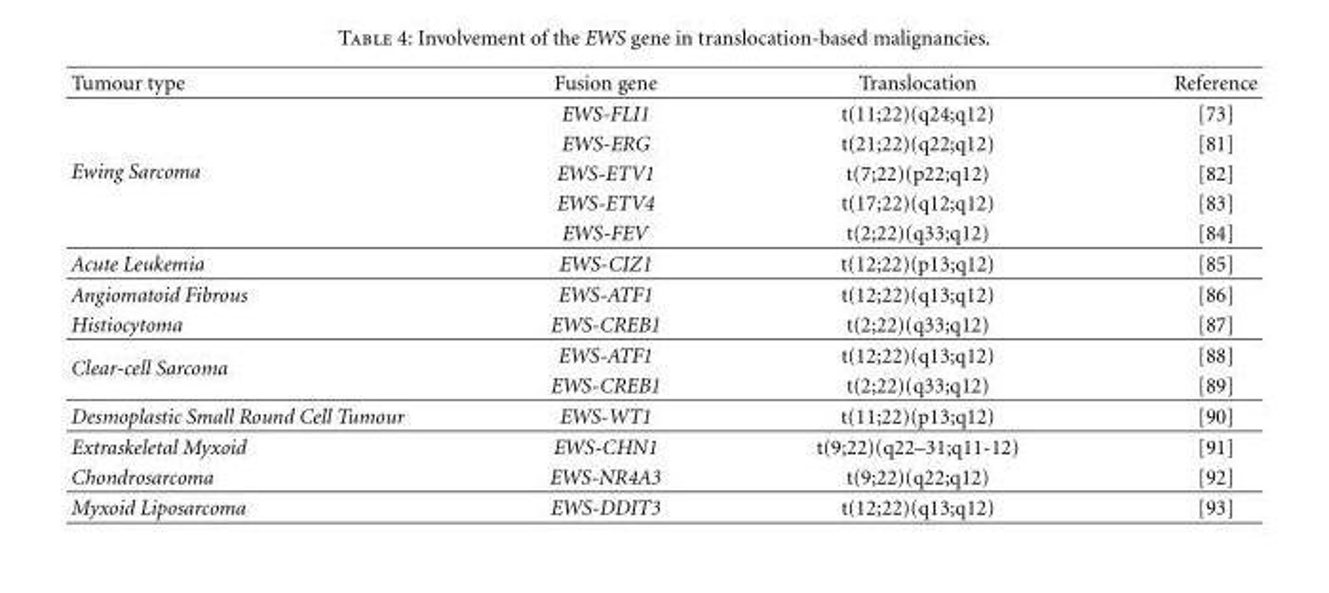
<table><thead><tr><td>Tumour type</td><td>Fusion gene</td><td>Translocation</td><td>Reference</td></tr></thead><tbody><tr><td rowspan="5">Ewing Sarcoma</td><td>EWS-FLI1</td><td>t(11;22)(q24;q12)</td><td>[73]</td></tr><tr><td>EWS-ERG</td><td>t(21;22)(q22;q12)</td><td>[81]</td></tr><tr><td>EWS-ETV1</td><td>t(7;22)(p22;q12)</td><td>[82]</td></tr><tr><td>EWS-ETV4</td><td>t(17;22)(q12;q12)</td><td>[83]</td></tr><tr><td>EWS-FEV</td><td>t(2;22)(q33;q12)</td><td>[84]</td></tr><tr><td>Acute Leukemia</td><td>EWS-CIZ1</td><td>t(12;22)(p13;q12)</td><td>[85]</td></tr><tr><td>Angiomatoid Fibrous</td><td>EWS-ATF1</td><td>t(12;22)(q13;q12)</td><td>[86]</td></tr><tr><td>Histiocytoma</td><td>EWS-CREB1</td><td>t(2;22)(q33;q12)</td><td>[87]</td></tr><tr><td rowspan="2">Clear-cell Sarcoma</td><td>EWS-ATF1</td><td>t(12;22)(q13;q12)</td><td>[88]</td></tr><tr><td>EWS-CREB1</td><td>t(2;22)(q33;q12)</td><td>[89]</td></tr><tr><td>Desmoplastic Small Round Cell Tumour</td><td>EWS-WT1</td><td>t(11;22)(p13;q12)</td><td>[90]</td></tr><tr><td>Extraskeletal Myxoid</td><td>EWS-CHN1</td><td>t(9;22)(q22–31;q11-12)</td><td>[91]</td></tr><tr><td>Chondrosarcoma</td><td>EWS-NR4A3</td><td>t(9;22)(q22;q12)</td><td>[92]</td></tr><tr><td>Myxoid Liposarcoma</td><td>EWS-DDIT3</td><td>t(12;22)(q13;q12)</td><td>[93]</td></tr></tbody></table>